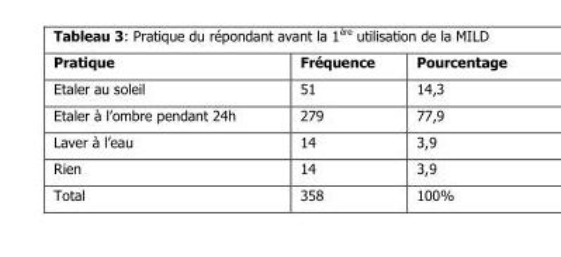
<table><thead><tr><td>Pratique</td><td>Fréquence</td><td>Pourcentage</td></tr></thead><tbody><tr><td>Etaler au soleil</td><td>51</td><td>14,3</td></tr><tr><td>Etaler à l’ombre pendant 24h</td><td>279</td><td>77,9</td></tr><tr><td>Laver à l’eau</td><td>14</td><td>3,9</td></tr><tr><td>Rien</td><td>14</td><td>3,9</td></tr><tr><td>Total</td><td>358</td><td>100%</td></tr></tbody></table>